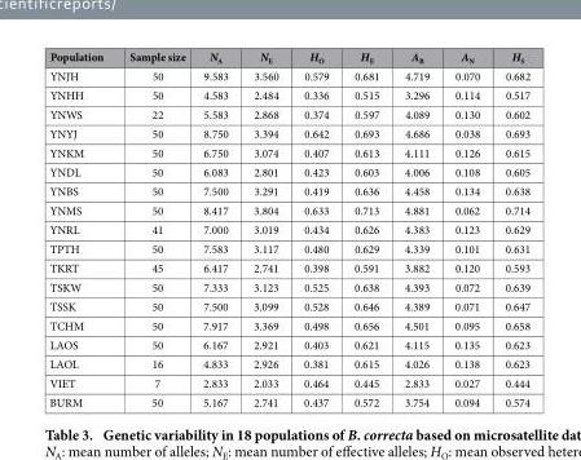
<table><thead><tr><td>Population</td><td>Sample size</td><td>N<sub>A</sub></td><td>N<sub>E</sub></td><td>H<sub>O</sub></td><td>H<sub>E</sub></td><td>A<sub>R</sub></td><td>A<sub>N</sub></td><td>H<sub>S</sub></td></tr></thead><tbody><tr><td>YNJH</td><td>50</td><td>9.583</td><td>3.560</td><td>0.579</td><td>0.681</td><td>4.719</td><td>0.070</td><td>0.682</td></tr><tr><td>YNHH</td><td>50</td><td>4.583</td><td>2.484</td><td>0.336</td><td>0.515</td><td>3.296</td><td>0.114</td><td>0.517</td></tr><tr><td>YNWS</td><td>22</td><td>5.583</td><td>2.868</td><td>0.374</td><td>0.597</td><td>4.089</td><td>0.130</td><td>0.602</td></tr><tr><td>YNYJ</td><td>50</td><td>8.750</td><td>3.394</td><td>0.642</td><td>0.693</td><td>4.686</td><td>0.038</td><td>0.693</td></tr><tr><td>YNKM</td><td>50</td><td>6.750</td><td>3.074</td><td>0.407</td><td>0.613</td><td>4.111</td><td>0.126</td><td>0.615</td></tr><tr><td>YNDL</td><td>50</td><td>6.083</td><td>2.801</td><td>0.423</td><td>0.603</td><td>4.006</td><td>0.108</td><td>0.605</td></tr><tr><td>YNBS</td><td>50</td><td>7.500</td><td>3.291</td><td>0.419</td><td>0.636</td><td>4.458</td><td>0.134</td><td>0.638</td></tr><tr><td>YNMS</td><td>50</td><td>8.417</td><td>3.804</td><td>0.633</td><td>0.713</td><td>4.881</td><td>0.062</td><td>0.714</td></tr><tr><td>YNRL</td><td>41</td><td>7.000</td><td>3.019</td><td>0.434</td><td>0.626</td><td>4.383</td><td>0.123</td><td>0.629</td></tr><tr><td>TPTH</td><td>50</td><td>7.583</td><td>3.117</td><td>0.480</td><td>0.629</td><td>4.339</td><td>0.101</td><td>0.631</td></tr><tr><td>TKRT</td><td>45</td><td>6.417</td><td>2.741</td><td>0.398</td><td>0.591</td><td>3.882</td><td>0.120</td><td>0.593</td></tr><tr><td>TSKW</td><td>50</td><td>7.333</td><td>3.123</td><td>0.525</td><td>0.638</td><td>4.393</td><td>0.072</td><td>0.639</td></tr><tr><td>TSSK</td><td>50</td><td>7.500</td><td>3.099</td><td>0.528</td><td>0.646</td><td>4.389</td><td>0.071</td><td>0.647</td></tr><tr><td>TCHM</td><td>50</td><td>7.917</td><td>3.369</td><td>0.498</td><td>0.656</td><td>4.501</td><td>0.095</td><td>0.658</td></tr><tr><td>LAOS</td><td>50</td><td>6.167</td><td>2.921</td><td>0.403</td><td>0.621</td><td>4.115</td><td>0.135</td><td>0.623</td></tr><tr><td>LAOL</td><td>16</td><td>4.833</td><td>2.926</td><td>0.381</td><td>0.615</td><td>4.026</td><td>0.138</td><td>0.623</td></tr><tr><td>VIET</td><td>7</td><td>2.833</td><td>2.033</td><td>0.464</td><td>0.445</td><td>2.833</td><td>0.027</td><td>0.444</td></tr><tr><td>BURM</td><td>50</td><td>5.167</td><td>2.741</td><td>0.437</td><td>0.572</td><td>3.754</td><td>0.094</td><td>0.574</td></tr></tbody></table>